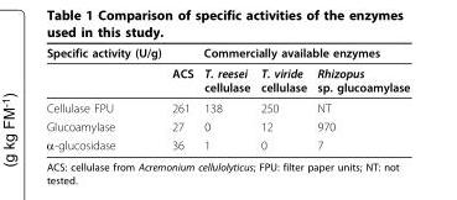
<table><thead><tr><td rowspan="2">Specific activity (U/g)</td><td colspan="4">Commercially available enzymes</td></tr><tr><td>ACS</td><td>T. reesei cellulase</td><td>T. viride cellulase</td><td>Rhizopus sp. glucoamylase</td></tr></thead><tbody><tr><td>Cellulase FPU</td><td>261</td><td>138</td><td>250</td><td>NT</td></tr><tr><td>Glucoamylase</td><td>27</td><td>0</td><td>12</td><td>970</td></tr><tr><td>α-glucosidase</td><td>36</td><td>1</td><td>0</td><td>7</td></tr></tbody></table>